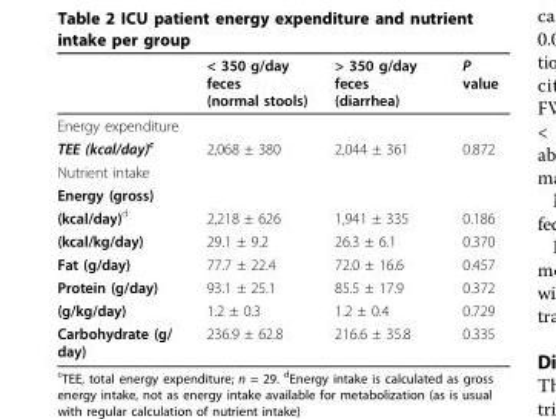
<table><thead><tr><td></td><td>&lt; 350 g/day feces (normal stools)</td><td>&gt; 350 g/day feces (diarrhea)</td><td>P value</td></tr></thead><tbody><tr><td colspan="4">Energy expenditure</td></tr><tr><td>TEE (kcal/day)<sup>c</sup></td><td>2,068 ± 380</td><td>2,044 ± 361</td><td>0.872</td></tr><tr><td colspan="4">Nutrient intake</td></tr><tr><td colspan="4">Energy (gross)</td></tr><tr><td>(kcal/day)<sup>d</sup></td><td>2,218 ± 626</td><td>1,941 ± 335</td><td>0.186</td></tr><tr><td>(kcal/kg/day)</td><td>29.1 ± 9.2</td><td>26.3 ± 6.1</td><td>0.370</td></tr><tr><td>Fat (g/day)</td><td>77.7 ± 22.4</td><td>72.0 ± 16.6</td><td>0.457</td></tr><tr><td>Protein (g/day)</td><td>93.1 ± 25.1</td><td>85.5 ± 17.9</td><td>0.372</td></tr><tr><td>(g/kg/day)</td><td>1.2 ± 0.3</td><td>1.2 ± 0.4</td><td>0.729</td></tr><tr><td>Carbohydrate (g/ day)</td><td>236.9 ± 62.8</td><td>216.6 ± 35.8</td><td>0.335</td></tr></tbody></table>